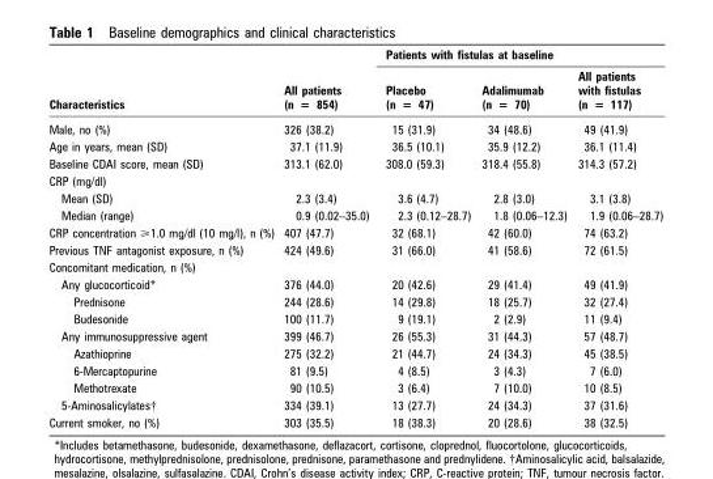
<table><thead><tr><td rowspan="2">Characteristics</td><td rowspan="2">All patients (n = 854)</td><td colspan="3">Patients with fistulas at baseline</td></tr><tr><td>Placebo (n = 47)</td><td>Adalimumab (n = 70)</td><td>All patients with fistulas (n = 117)</td></tr></thead><tbody><tr><td>Male, no (%)</td><td>326 (38.2)</td><td>15 (31.9)</td><td>34 (48.6)</td><td>49 (41.9)</td></tr><tr><td>Age in years, mean (SD)</td><td>37.1 (11.9)</td><td>36.5 (10.1)</td><td>35.9 (12.2)</td><td>36.1 (11.4)</td></tr><tr><td>Baseline CDAI score, mean (SD)</td><td>313.1 (62.0)</td><td>308.0 (59.3)</td><td>318.4 (55.8)</td><td>314.3 (57.2)</td></tr><tr><td colspan="5">CRP (mg/dl)</td></tr><tr><td>Mean (SD)</td><td>2.3 (3.4)</td><td>3.6 (4.7)</td><td>2.8 (3.0)</td><td>3.1 (3.8)</td></tr><tr><td>Median (range)</td><td>0.9 (0.02–35.0)</td><td>2.3 (0.12–28.7)</td><td>1.8 (0.06–12.3)</td><td>1.9 (0.06–28.7)</td></tr><tr><td>CRP concentration &gt;1.0 mg/dl (10 mg/l), n (%)</td><td>407 (47.7)</td><td>32 (68.1)</td><td>42 (60.0)</td><td>74 (63.2)</td></tr><tr><td>Previous TNF antagonist exposure, n (%)</td><td>424 (49.6)</td><td>31 (66.0)</td><td>41 (58.6)</td><td>72 (61.5)</td></tr><tr><td colspan="5">Concomitant medication, n (%)</td></tr><tr><td>Any glucocorticoid*</td><td>376 (44.0)</td><td>20 (42.6)</td><td>29 (41.4)</td><td>49 (41.9)</td></tr><tr><td>Prednisone</td><td>244 (28.6)</td><td>14 (29.8)</td><td>18 (25.7)</td><td>32 (27.4)</td></tr><tr><td>Budesonide</td><td>100 (11.7)</td><td>9 (19.1)</td><td>2 (2.9)</td><td>11 (9.4)</td></tr><tr><td>Any immunosuppressive agent</td><td>399 (46.7)</td><td>26 (55.3)</td><td>31 (44.3)</td><td>57 (48.7)</td></tr><tr><td>Azathioprine</td><td>275 (32.2)</td><td>21 (44.7)</td><td>24 (34.3)</td><td>45 (38.5)</td></tr><tr><td>6-Mercaptopurine</td><td>81 (9.5)</td><td>4 (8.5)</td><td>3 (4.3)</td><td>7 (6.0)</td></tr><tr><td>Methotrexate</td><td>90 (10.5)</td><td>3 (6.4)</td><td>7 (10.0)</td><td>10 (8.5)</td></tr><tr><td>5-Aminosalicylates†</td><td>334 (39.1)</td><td>13 (27.7)</td><td>24 (34.3)</td><td>37 (31.6)</td></tr><tr><td>Current smoker, no (%)</td><td>303 (35.5)</td><td>18 (38.3)</td><td>20 (28.6)</td><td>38 (32.5)</td></tr></tbody></table>